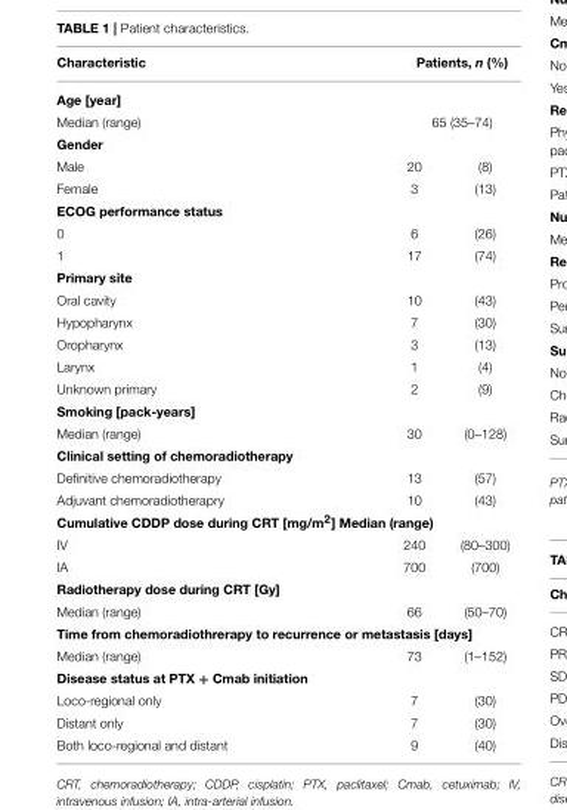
<table><thead><tr><td>Characteristic</td><td colspan="2">Patients, n (%)</td></tr></thead><tbody><tr><td colspan="3">Age [year]</td></tr><tr><td>Median (range)</td><td colspan="2">65 (35–74)</td></tr><tr><td colspan="3">Gender</td></tr><tr><td>Male</td><td>20</td><td>(8)</td></tr><tr><td>Female</td><td>3</td><td>(13)</td></tr><tr><td colspan="3">ECOG performance status</td></tr><tr><td>0</td><td>6</td><td>(26)</td></tr><tr><td>1</td><td>17</td><td>(74)</td></tr><tr><td colspan="3">Primary site</td></tr><tr><td>Oral cavity</td><td>10</td><td>(43)</td></tr><tr><td>Hypopharynx</td><td>7</td><td>(30)</td></tr><tr><td>Oropharynx</td><td>3</td><td>(13)</td></tr><tr><td>Larynx</td><td>1</td><td>(4)</td></tr><tr><td>Unknown primary</td><td>2</td><td>(9)</td></tr><tr><td colspan="3">Smoking [pack-years]</td></tr><tr><td>Median (range)</td><td>30</td><td>(0–128)</td></tr><tr><td colspan="3">Clinical setting of chemoradiotherapy</td></tr><tr><td>Definitive chemoradiotherapy</td><td>13</td><td>(57)</td></tr><tr><td>Adjuvant chemoradiotherapry</td><td>10</td><td>(43)</td></tr><tr><td colspan="3">Cumulative CDDP dose during CRT [mg/m<sup>2</sup>] Median (range)</td></tr><tr><td>IV</td><td>240</td><td>(80–300)</td></tr><tr><td>IA</td><td>700</td><td>(700)</td></tr><tr><td colspan="3">Radiotherapy dose during CRT [Gy]</td></tr><tr><td>Median (range)</td><td>66</td><td>(50–70)</td></tr><tr><td colspan="3">Time from chemoradiothrerapy to recurrence or metastasis [days]</td></tr><tr><td>Median (range)</td><td>73</td><td>(1–152)</td></tr><tr><td colspan="3">Disease status at PTX + Cmab initiation</td></tr><tr><td>Loco-regional only</td><td>7</td><td>(30)</td></tr><tr><td>Distant only</td><td>7</td><td>(30)</td></tr><tr><td>Both loco-regional and distant</td><td>9</td><td>(40)</td></tr></tbody></table>